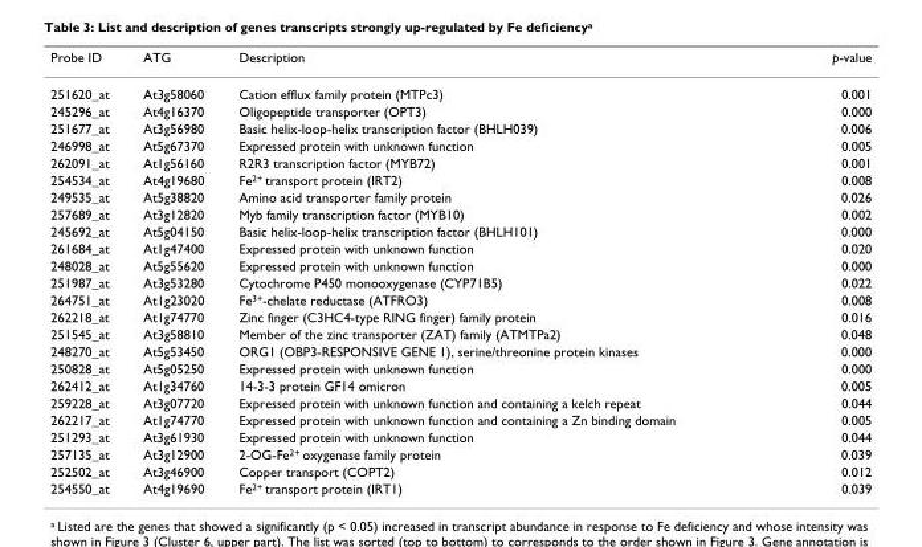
<table><thead><tr><td>Probe ID</td><td>ATG</td><td>Description</td><td>p-value</td></tr></thead><tbody><tr><td>251620_at</td><td>At3g58060</td><td>Cation efflux family protein (MTPc3)</td><td>0.001</td></tr><tr><td>245296_at</td><td>At4g16370</td><td>Oligopeptide transporter (OPT3)</td><td>0.000</td></tr><tr><td>251677_at</td><td>At3g56980</td><td>Basic helix-loop-helix transcription factor (BHLH039)</td><td>0.006</td></tr><tr><td>246998_at</td><td>At5g67370</td><td>Expressed protein with unknown function</td><td>0.005</td></tr><tr><td>262091_at</td><td>At1g56160</td><td>R2R3 transcription factor (MYB72)</td><td>0.001</td></tr><tr><td>254534_at</td><td>At4g19680</td><td>Fe<sup>2+</sup> transport protein (IRT2)</td><td>0.008</td></tr><tr><td>249535_at</td><td>At5g38820</td><td>Amino acid transporter family protein</td><td>0.026</td></tr><tr><td>257689_at</td><td>At3g12820</td><td>Myb family transcription factor (MYB10)</td><td>0.002</td></tr><tr><td>245692_at</td><td>At5g04150</td><td>Basic helix-loop-helix transcription factor (BHLH101)</td><td>0.000</td></tr><tr><td>261684_at</td><td>At1g47400</td><td>Expressed protein with unknown function</td><td>0.020</td></tr><tr><td>248028_at</td><td>At5g55620</td><td>Expressed protein with unknown function</td><td>0.000</td></tr><tr><td>251987_at</td><td>At3g53280</td><td>Cytochrome P450 monooxygenase (CYP71B5)</td><td>0.022</td></tr><tr><td>264751_at</td><td>At1g23020</td><td>Fe<sup>3+</sup>-chelate reductase (ATFRO3)</td><td>0.008</td></tr><tr><td>262218_at</td><td>At1g74770</td><td>Zinc finger (C3HC4-type RING finger) family protein</td><td>0.016</td></tr><tr><td>251545_at</td><td>At3g58810</td><td>Member of the zinc transporter (ZAT) family (ATMTPa2)</td><td>0.048</td></tr><tr><td>248270_at</td><td>At5g53450</td><td>ORG1 (OBP3-RESPONSIVE GENE 1), serine/threonine protein kinases</td><td>0.000</td></tr><tr><td>250828_at</td><td>At5g05250</td><td>Expressed protein with unknown function</td><td>0.000</td></tr><tr><td>262412_at</td><td>At1g34760</td><td>14-3-3 protein GF14 omicron</td><td>0.005</td></tr><tr><td>259228_at</td><td>At3g07720</td><td>Expressed protein with unknown function and containing a kelch repeat</td><td>0.044</td></tr><tr><td>262217_at</td><td>At1g74770</td><td>Expressed protein with unknown function and containing a Zn binding domain</td><td>0.005</td></tr><tr><td>251293_at</td><td>At3g61930</td><td>Expressed protein with unknown function</td><td>0.044</td></tr><tr><td>257135_at</td><td>At3g12900</td><td>2-OG-Fe<sup>2+</sup> oxygenase family protein</td><td>0.039</td></tr><tr><td>252502_at</td><td>At3g46900</td><td>Copper transport (COPT2)</td><td>0.012</td></tr><tr><td>254550_at</td><td>At4g19690</td><td>Fe<sup>2+</sup> transport protein (IRT1)</td><td>0.039</td></tr></tbody></table>